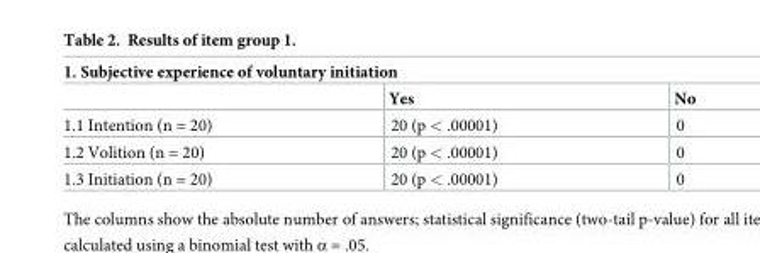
<table><thead><tr><td colspan="3">1. Subjective experience of voluntary initiation</td></tr><tr><td></td><td>Yes</td><td>No</td></tr></thead><tbody><tr><td>1.1 Intention (n = 20)</td><td>20 (p &lt; .00001)</td><td>0</td></tr><tr><td>1.2 Volition (n = 20)</td><td>20 (p &lt; .00001)</td><td>0</td></tr><tr><td>1.3 Initiation (n = 20)</td><td>20 (p &lt; .00001)</td><td>0</td></tr></tbody></table>